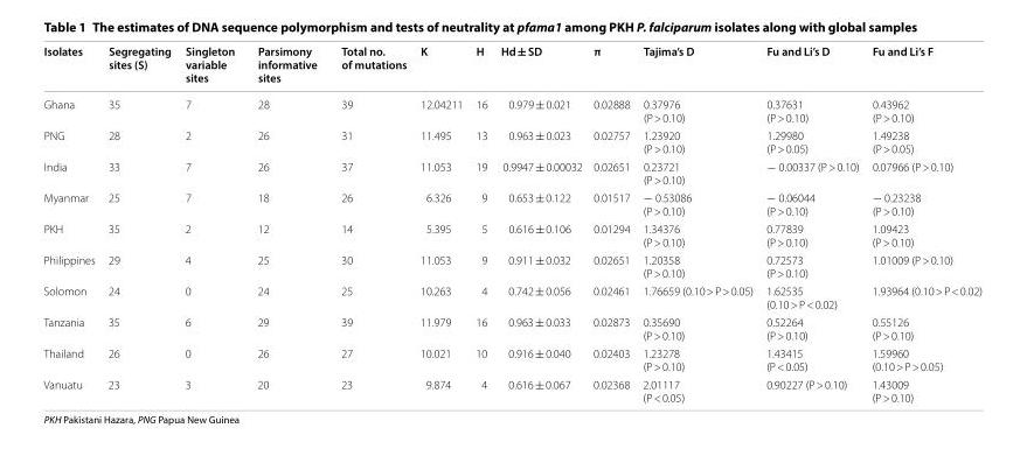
<table><thead><tr><td>Isolates</td><td>Segregating sites (S)</td><td>Singleton variable sites</td><td>Parsimony informative sites</td><td>Total no. of mutations</td><td>K</td><td>H</td><td>Hd ± SD</td><td>π</td><td>Tajima’s D</td><td>Fu and Li’s D</td><td>Fu and Li’s F</td></tr></thead><tbody><tr><td>Ghana</td><td>35</td><td>7</td><td>28</td><td>39</td><td>12.04211</td><td>16</td><td>0.979 ± 0.021</td><td>0.02888</td><td>0.37976 (P &gt; 0.10)</td><td>0.37631 (P &gt; 0.10)</td><td>0.43962 (P &gt; 0.10)</td></tr><tr><td>PNG</td><td>28</td><td>2</td><td>26</td><td>31</td><td>11.495</td><td>13</td><td>0.963 ± 0.023</td><td>0.02757</td><td>1.23920 (P &gt; 0.10)</td><td>1.29980 (P &gt; 0.05)</td><td>1.49238 (P &gt; 0.05)</td></tr><tr><td>India</td><td>33</td><td>7</td><td>26</td><td>37</td><td>11.053</td><td>19</td><td>0.9947 ± 0.00032</td><td>0.02651</td><td>0.23721 (P &gt; 0.10)</td><td>− 0.00337 (P &gt; 0.10)</td><td>0.07966 (P &gt; 0.10)</td></tr><tr><td>Myanmar</td><td>25</td><td>7</td><td>18</td><td>26</td><td>6.326</td><td>9</td><td>0.653 ± 0.122</td><td>0.01517</td><td>− 0.53086 (P &gt; 0.10)</td><td>− 0.06044 (P &gt; 0.10)</td><td>− 0.23238 (P &gt; 0.10)</td></tr><tr><td>PKH</td><td>35</td><td>2</td><td>12</td><td>14</td><td>5.395</td><td>5</td><td>0.616 ± 0.106</td><td>0.01294</td><td>1.34376 (P &gt; 0.10)</td><td>0.77839 (P &gt; 0.10)</td><td>1.09423 (P &gt; 0.10)</td></tr><tr><td>Philippines</td><td>29</td><td>4</td><td>25</td><td>30</td><td>11.053</td><td>9</td><td>0.911 ± 0.032</td><td>0.02651</td><td>1.20358 (P &gt; 0.10)</td><td>0.72573 (P &gt; 0.10)</td><td>1.01009 (P &gt; 0.10)</td></tr><tr><td>Solomon</td><td>24</td><td>0</td><td>24</td><td>25</td><td>10.263</td><td>4</td><td>0.742 ± 0.056</td><td>0.02461</td><td>1.76659 (0.10 &gt; P &gt; 0.05)</td><td>1.62535 (0.10 &gt; P &lt; 0.02)</td><td>1.93964 (0.10 &gt; P &lt; 0.02)</td></tr><tr><td>Tanzania</td><td>35</td><td>6</td><td>29</td><td>39</td><td>11.979</td><td>16</td><td>0.963 ± 0.033</td><td>0.02873</td><td>0.35690 (P &gt; 0.10)</td><td>0.52264 (P &gt; 0.10)</td><td>0.55126 (P &gt; 0.10)</td></tr><tr><td>Thailand</td><td>26</td><td>0</td><td>26</td><td>27</td><td>10.021</td><td>10</td><td>0.916 ± 0.040</td><td>0.02403</td><td>1.23278 (P &gt; 0.10)</td><td>1.43415 (P &lt; 0.05)</td><td>1.59960 (0.10 &gt; P &gt; 0.05)</td></tr><tr><td>Vanuatu</td><td>23</td><td>3</td><td>20</td><td>23</td><td>9.874</td><td>4</td><td>0.616 ± 0.067</td><td>0.02368</td><td>2.01117 (P &lt; 0.05)</td><td>0.90227 (P &gt; 0.10)</td><td>1.43009 (P &gt; 0.10)</td></tr></tbody></table>